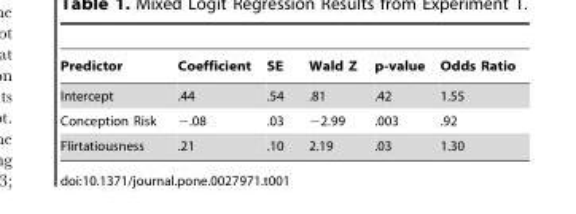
<table><thead><tr><td>Predictor</td><td>Coefficient</td><td>SE</td><td>Wald Z</td><td>p-value</td><td>Odds Ratio</td></tr></thead><tbody><tr><td>Intercept</td><td>.44</td><td>.54</td><td>.81</td><td>.42</td><td>1.55</td></tr><tr><td>Conception Risk</td><td>−.08</td><td>.03</td><td>−2.99</td><td>.003</td><td>.92</td></tr><tr><td>Flirtatiousness</td><td>.21</td><td>.10</td><td>2.19</td><td>.03</td><td>1.30</td></tr></tbody></table>